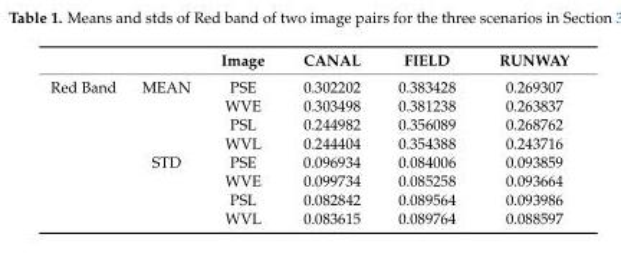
<table><thead><tr><td></td><td></td><td>Image</td><td>CANAL</td><td>FIELD</td><td>RUNWAY</td></tr></thead><tbody><tr><td rowspan="8">Red Band</td><td>MEAN</td><td>PSE</td><td>0.302202</td><td>0.383428</td><td>0.269307</td></tr><tr><td></td><td>WVE</td><td>0.303498</td><td>0.381238</td><td>0.263837</td></tr><tr><td></td><td>PSL</td><td>0.244982</td><td>0.356089</td><td>0.268762</td></tr><tr><td></td><td>WVL</td><td>0.244404</td><td>0.354388</td><td>0.243716</td></tr><tr><td>STD</td><td>PSE</td><td>0.096934</td><td>0.084006</td><td>0.093859</td></tr><tr><td></td><td>WVE</td><td>0.099734</td><td>0.085258</td><td>0.093664</td></tr><tr><td></td><td>PSL</td><td>0.082842</td><td>0.089564</td><td>0.093986</td></tr><tr><td></td><td>WVL</td><td>0.083615</td><td>0.089764</td><td>0.088597</td></tr></tbody></table>